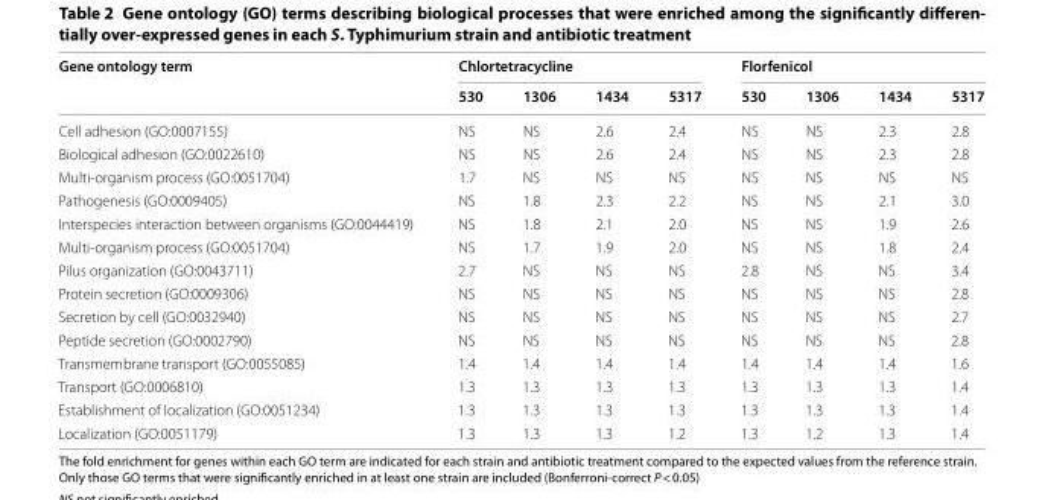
<table><thead><tr><td rowspan="2">Gene ontology term</td><td colspan="4">Chlortetracycline</td><td colspan="4">Florfenicol</td></tr><tr><td>530</td><td>1306</td><td>1434</td><td>5317</td><td>530</td><td>1306</td><td>1434</td><td>5317</td></tr></thead><tbody><tr><td>Cell adhesion (GO:0007155)</td><td>NS</td><td>NS</td><td>2.6</td><td>2.4</td><td>NS</td><td>NS</td><td>2.3</td><td>2.8</td></tr><tr><td>Biological adhesion (GO:0022610)</td><td>NS</td><td>NS</td><td>2.6</td><td>2.4</td><td>NS</td><td>NS</td><td>2.3</td><td>2.8</td></tr><tr><td>Multi-organism process (GO:0051704)</td><td>1.7</td><td>NS</td><td>NS</td><td>NS</td><td>NS</td><td>NS</td><td>NS</td><td>NS</td></tr><tr><td>Pathogenesis (GO:0009405)</td><td>NS</td><td>1.8</td><td>2.3</td><td>2.2</td><td>NS</td><td>NS</td><td>2.1</td><td>3.0</td></tr><tr><td>Interspecies interaction between organisms (GO:0044419)</td><td>NS</td><td>1.8</td><td>2.1</td><td>2.0</td><td>NS</td><td>NS</td><td>1.9</td><td>2.6</td></tr><tr><td>Multi-organism process (GO:0051704)</td><td>NS</td><td>1.7</td><td>1.9</td><td>2.0</td><td>NS</td><td>NS</td><td>1.8</td><td>2.4</td></tr><tr><td>Pilus organization (GO:0043711)</td><td>2.7</td><td>NS</td><td>NS</td><td>NS</td><td>2.8</td><td>NS</td><td>NS</td><td>3.4</td></tr><tr><td>Protein secretion (GO:0009306)</td><td>NS</td><td>NS</td><td>NS</td><td>NS</td><td>NS</td><td>NS</td><td>NS</td><td>2.8</td></tr><tr><td>Secretion by cell (GO:0032940)</td><td>NS</td><td>NS</td><td>NS</td><td>NS</td><td>NS</td><td>NS</td><td>NS</td><td>2.7</td></tr><tr><td>Peptide secretion (GO:0002790)</td><td>NS</td><td>NS</td><td>NS</td><td>NS</td><td>NS</td><td>NS</td><td>NS</td><td>2.8</td></tr><tr><td>Transmembrane transport (GO:0055085)</td><td>1.4</td><td>1.4</td><td>1.4</td><td>1.4</td><td>1.4</td><td>1.4</td><td>1.4</td><td>1.6</td></tr><tr><td>Transport (GO:0006810)</td><td>1.3</td><td>1.3</td><td>1.3</td><td>1.3</td><td>1.3</td><td>1.3</td><td>1.3</td><td>1.4</td></tr><tr><td>Establishment of localization (GO:0051234)</td><td>1.3</td><td>1.3</td><td>1.3</td><td>1.3</td><td>1.3</td><td>1.3</td><td>1.3</td><td>1.4</td></tr><tr><td>Localization (GO:0051179)</td><td>1.3</td><td>1.3</td><td>1.3</td><td>1.2</td><td>1.3</td><td>1.2</td><td>1.3</td><td>1.4</td></tr></tbody></table>